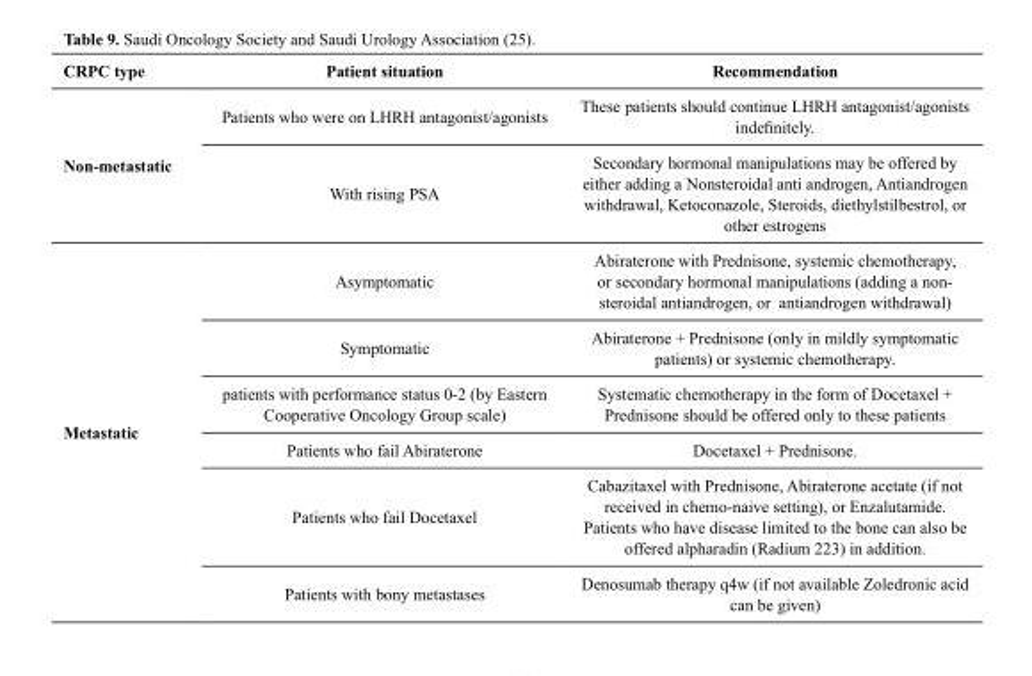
<table><thead><tr><td>CRPC type</td><td>Patient situation</td><td>Recommendation</td></tr></thead><tbody><tr><td rowspan="2">Non-metastatic</td><td>Patients who were on LHRH antagonist/agonists</td><td>These patients should continue LHRH antagonist/agonists indefinitely.</td></tr><tr><td>With rising PSA</td><td>Secondary hormonal manipulations may be offered by either adding a Nonsteroidal anti androgen, Antiandrogen withdrawal, Ketoconazole, Steroids, diethylstilbestrol, or other estrogens</td></tr><tr><td rowspan="6">Metastatic</td><td>Asymptomatic</td><td>Abiraterone with Prednisone, systemic chemotherapy, or secondary hormonal manipulations (adding a non- steroidal antiandrogen, or antiandrogen withdrawal)</td></tr><tr><td>Symptomatic</td><td>Abiraterone + Prednisone (only in mildly symptomatic patients) or systemic chemotherapy.</td></tr><tr><td>patients with performance status 0-2 (by Eastern Cooperative Oncology Group scale)</td><td>Systematic chemotherapy in the form of Docetaxel + Prednisone should be offered only to these patients</td></tr><tr><td>Patients who fail Abiraterone</td><td>Docetaxel + Prednisone.</td></tr><tr><td>Patients who fail Docetaxel</td><td>Cabazitaxel with Prednisone, Abiraterone acetate (if not received in chemo-naive setting), or Enzalutamide. Patients who have disease limited to the bone can also be offered alpharadin (Radium 223) in addition.</td></tr><tr><td>Patients with bony metastases</td><td>Denosumab therapy q4w (if not available Zoledronic acid can be given)</td></tr></tbody></table>